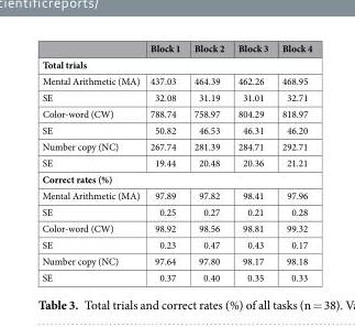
<table><thead><tr><td></td><td>Block 1</td><td>Block 2</td><td>Block 3</td><td>Block 4</td></tr></thead><tbody><tr><td colspan="5">Total trials</td></tr><tr><td>Mental Arithmetic (MA)</td><td>437.03</td><td>464.39</td><td>462.26</td><td>468.95</td></tr><tr><td>SE</td><td>32.08</td><td>31.19</td><td>31.01</td><td>32.71</td></tr><tr><td>Color-word (CW)</td><td>788.74</td><td>758.97</td><td>804.29</td><td>818.97</td></tr><tr><td>SE</td><td>50.82</td><td>46.53</td><td>46.31</td><td>46.20</td></tr><tr><td>Number copy (NC)</td><td>267.74</td><td>281.39</td><td>284.71</td><td>292.71</td></tr><tr><td>SE</td><td>19.44</td><td>20.48</td><td>20.36</td><td>21.21</td></tr><tr><td colspan="5">Correct rates (%)</td></tr><tr><td>Mental Arithmetic (MA)</td><td>97.89</td><td>97.82</td><td>98.41</td><td>97.96</td></tr><tr><td>SE</td><td>0.25</td><td>0.27</td><td>0.21</td><td>0.28</td></tr><tr><td>Color-word (CW)</td><td>98.92</td><td>98.56</td><td>98.81</td><td>99.32</td></tr><tr><td>SE</td><td>0.23</td><td>0.47</td><td>0.43</td><td>0.17</td></tr><tr><td>Number copy (NC)</td><td>97.64</td><td>97.80</td><td>98.17</td><td>98.18</td></tr><tr><td>SE</td><td>0.37</td><td>0.40</td><td>0.35</td><td>0.33</td></tr></tbody></table>